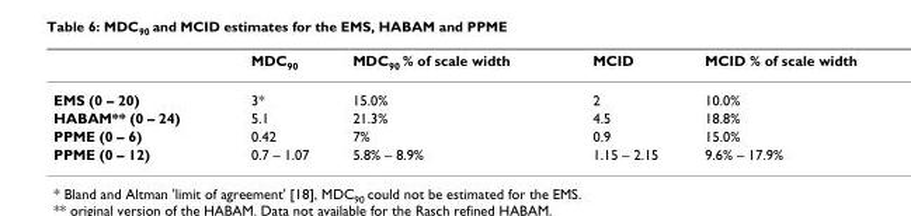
<table><thead><tr><td></td><td>MDC<sub>90</sub></td><td>MDC<sub>90</sub> % of scale width</td><td>MCID</td><td>MCID % of scale width</td></tr></thead><tbody><tr><td>EMS (0 – 20)</td><td>3*</td><td>15.0%</td><td>2</td><td>10.0%</td></tr><tr><td>HABAM** (0 – 24)</td><td>5.1</td><td>21.3%</td><td>4.5</td><td>18.8%</td></tr><tr><td>PPME (0 – 6)</td><td>0.42</td><td>7%</td><td>0.9</td><td>15.0%</td></tr><tr><td>PPME (0 – 12)</td><td>0.7 – 1.07</td><td>5.8% – 8.9%</td><td>1.15 – 2.15</td><td>9.6% – 17.9%</td></tr></tbody></table>